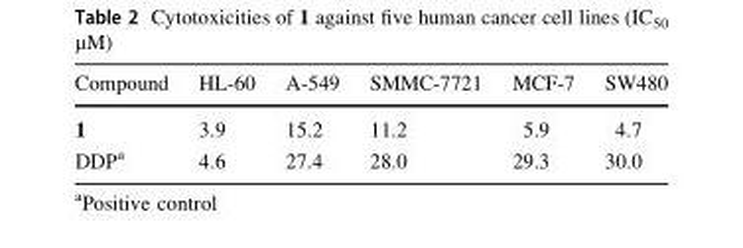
<table><thead><tr><td>Compound</td><td>HL-60</td><td>A-549</td><td>SMMC-7721</td><td>MCF-7</td><td>SW480</td></tr></thead><tbody><tr><td>1</td><td>3.9</td><td>15.2</td><td>11.2</td><td>5.9</td><td>4.7</td></tr><tr><td>DDP<sup>a</sup></td><td>4.6</td><td>27.4</td><td>28.0</td><td>29.3</td><td>30.0</td></tr></tbody></table>